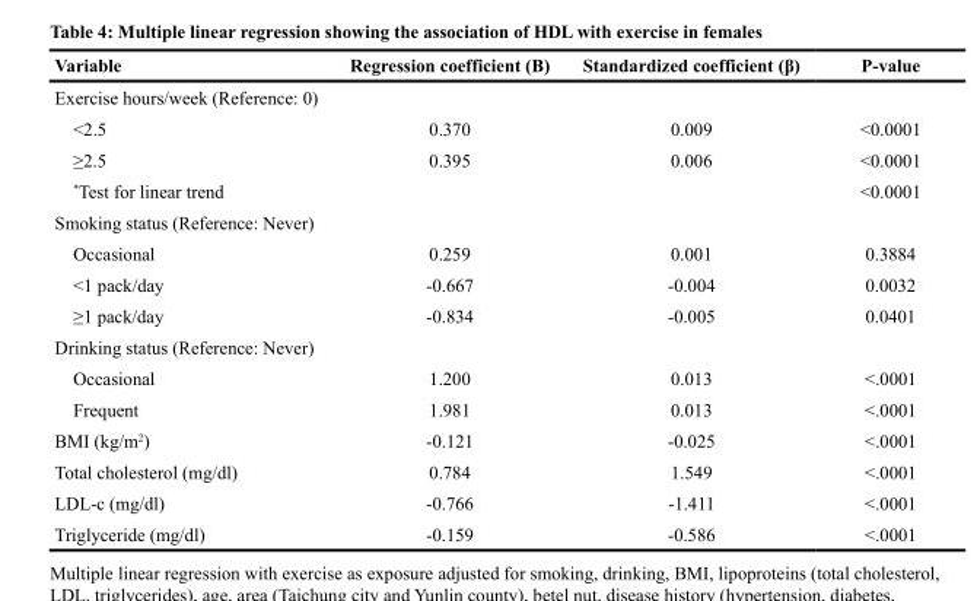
<table><thead><tr><td>Variable</td><td>Regression coefficient (B)</td><td>Standardized coefficient (β)</td><td>P-value</td></tr></thead><tbody><tr><td colspan="4">Exercise hours/week (Reference: 0)</td></tr><tr><td>&lt;2.5</td><td>0.370</td><td>0.009</td><td>&lt;0.0001</td></tr><tr><td>≥2.5</td><td>0.395</td><td>0.006</td><td>&lt;0.0001</td></tr><tr><td>*Test for linear trend</td><td></td><td></td><td>&lt;0.0001</td></tr><tr><td colspan="4">Smoking status (Reference: Never)</td></tr><tr><td>Occasional</td><td>0.259</td><td>0.001</td><td>0.3884</td></tr><tr><td>&lt;1 pack/day</td><td>-0.667</td><td>-0.004</td><td>0.0032</td></tr><tr><td>≥1 pack/day</td><td>-0.834</td><td>-0.005</td><td>0.0401</td></tr><tr><td colspan="4">Drinking status (Reference: Never)</td></tr><tr><td>Occasional</td><td>1.200</td><td>0.013</td><td>&lt;.0001</td></tr><tr><td>Frequent</td><td>1.981</td><td>0.013</td><td>&lt;.0001</td></tr><tr><td>BMI (kg/m<sup>2</sup>)</td><td>-0.121</td><td>-0.025</td><td>&lt;.0001</td></tr><tr><td>Total cholesterol (mg/dl)</td><td>0.784</td><td>1.549</td><td>&lt;.0001</td></tr><tr><td>LDL-c (mg/dl)</td><td>-0.766</td><td>-1.411</td><td>&lt;.0001</td></tr><tr><td>Triglyceride (mg/dl)</td><td>-0.159</td><td>-0.586</td><td>&lt;.0001</td></tr></tbody></table>